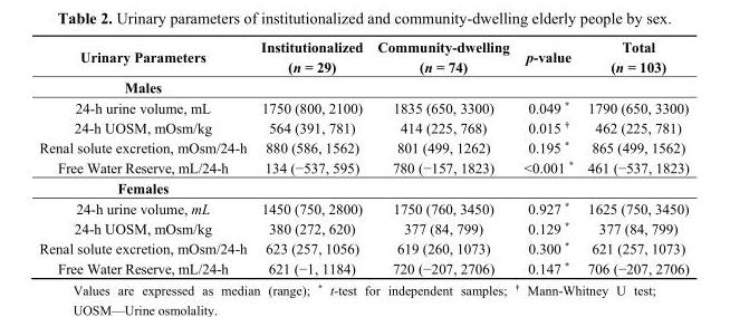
<table><thead><tr><td>Urinary Parameters</td><td>Institutionalized (n = 29)</td><td>Community-dwelling (n = 74)</td><td>p-value</td><td>Total (n = 103)</td></tr></thead><tbody><tr><td colspan="5">Males</td></tr><tr><td>24-h urine volume, mL</td><td>1750 (800, 2100)</td><td>1835 (650, 3300)</td><td>0.049 *</td><td>1790 (650, 3300)</td></tr><tr><td>24-h UOSM, mOsm/kg</td><td>564 (391, 781)</td><td>414 (225, 768)</td><td>0.015 <sup>†</sup></td><td>462 (225, 781)</td></tr><tr><td>Renal solute excretion, mOsm/24-h</td><td>880 (586, 1562)</td><td>801 (499, 1262)</td><td>0.195 *</td><td>865 (499, 1562)</td></tr><tr><td>Free Water Reserve, mL/24-h</td><td>134 (−537, 595)</td><td>780 (−157, 1823)</td><td>&lt;0.001 *</td><td>461 (−537, 1823)</td></tr><tr><td colspan="5">Females</td></tr><tr><td>24-h urine volume, mL</td><td>1450 (750, 2800)</td><td>1750 (760, 3450)</td><td>0.927 *</td><td>1625 (750, 3450)</td></tr><tr><td>24-h UOSM, mOsm/kg</td><td>380 (272, 620)</td><td>377 (84, 799)</td><td>0.129 *</td><td>377 (84, 799)</td></tr><tr><td>Renal solute excretion, mOsm/24-h</td><td>623 (257, 1056)</td><td>619 (260, 1073)</td><td>0.300 *</td><td>621 (257, 1073)</td></tr><tr><td>Free Water Reserve, mL/24-h</td><td>621 (−1, 1184)</td><td>720 (−207, 2706)</td><td>0.147 *</td><td>706 (−207, 2706)</td></tr></tbody></table>